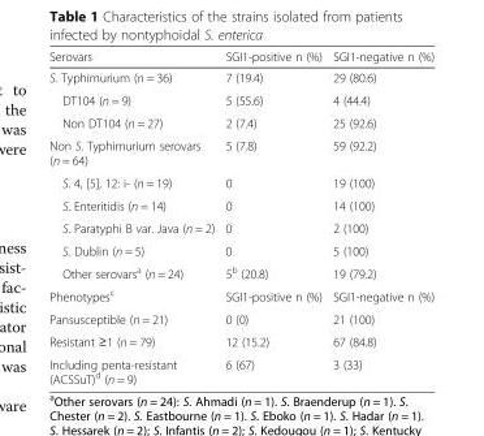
<table><thead><tr><td>Serovars</td><td>SGI1-positive n (%)</td><td>SGI1-negative n (%)</td></tr></thead><tbody><tr><td>S. Typhimurium (n = 36)</td><td>7 (19.4)</td><td>29 (80.6)</td></tr><tr><td>DT104 (n = 9)</td><td>5 (55.6)</td><td>4 (44.4)</td></tr><tr><td>Non DT104 (n = 27)</td><td>2 (7.4)</td><td>25 (92.6)</td></tr><tr><td>Non S. Typhimurium serovars (n = 64)</td><td>5 (7.8)</td><td>59 (92.2)</td></tr><tr><td>S. 4, [5], 12: i- (n = 19)</td><td>0</td><td>19 (100)</td></tr><tr><td>S. Enteritidis (n = 14)</td><td>0</td><td>14 (100)</td></tr><tr><td>S. Paratyphi B var. Java (n = 2)</td><td>0</td><td>2 (100)</td></tr><tr><td>S. Dublin (n = 5)</td><td>0</td><td>5 (100)</td></tr><tr><td>Other serovars<sup>a</sup> (n = 24)</td><td>5<sup>b</sup> (20.8)</td><td>19 (79.2)</td></tr><tr><td>Phenotypes<sup>c</sup></td><td>SGI1-positive n (%)</td><td>SGI1-negative n (%)</td></tr><tr><td>Pansusceptible (n = 21)</td><td>0 (0)</td><td>21 (100)</td></tr><tr><td>Resistant ≥1 (n = 79)</td><td>12 (15.2)</td><td>67 (84.8)</td></tr><tr><td>Including penta-resistant (ACSSuT)<sup>d</sup> (n = 9)</td><td>6 (67)</td><td>3 (33)</td></tr></tbody></table>